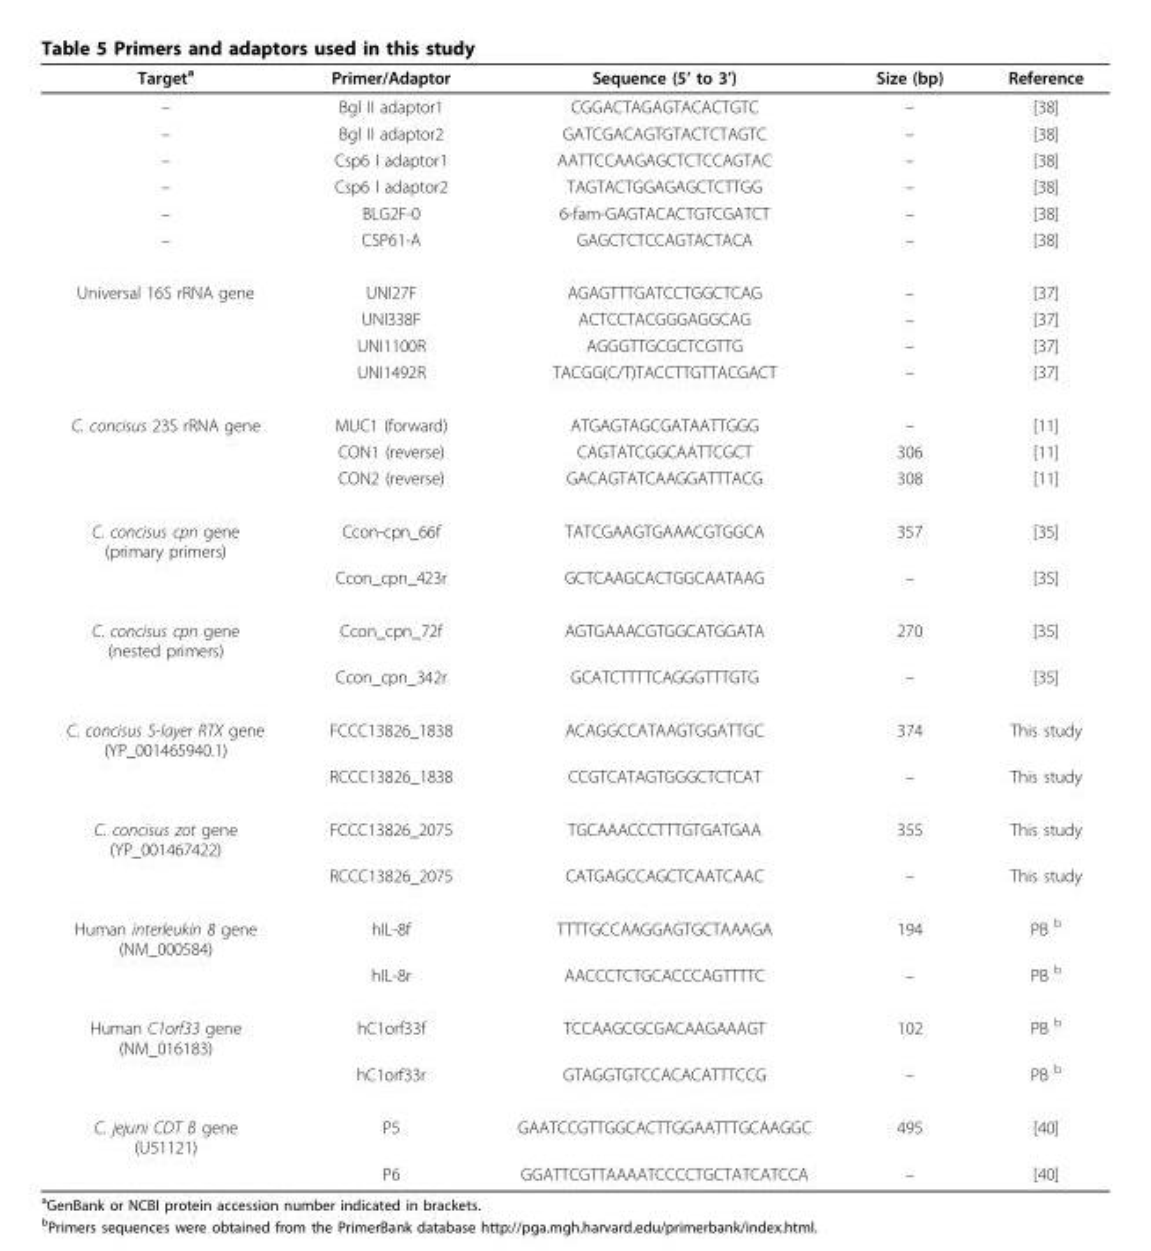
<table><thead><tr><td>Target<sup>a</sup></td><td>Primer/Adaptor</td><td>Sequence (5’ to 3’)</td><td>Size (bp)</td><td>Reference</td></tr></thead><tbody><tr><td>–</td><td>Bgl II adaptor1</td><td>CGGACTAGAGTACACTGTC</td><td>–</td><td>[38]</td></tr><tr><td>–</td><td>Bgl II adaptor2</td><td>GATCGACAGTGTACTCTAGTC</td><td>–</td><td>[38]</td></tr><tr><td>–</td><td>Csp6 I adaptor1</td><td>AATTCCAAGAGCTCTCCAGTAC</td><td>–</td><td>[38]</td></tr><tr><td>–</td><td>Csp6 I adaptor2</td><td>TAGTACTGGAGAGCTCTTGG</td><td>–</td><td>[38]</td></tr><tr><td>–</td><td>BLG2F-0</td><td>6-fam-GAGTACACTGTCGATCT</td><td>–</td><td>[38]</td></tr><tr><td>–</td><td>CSP61-A</td><td>GAGCTCTCCAGTACTACA</td><td>–</td><td>[38]</td></tr><tr><td rowspan="4">Universal 16S rRNA gene</td><td>UNI27F</td><td>AGAGTTTGATCCTGGCTCAG</td><td>–</td><td>[37]</td></tr><tr><td>UNI338F</td><td>ACTCCTACGGGAGGCAG</td><td>–</td><td>[37]</td></tr><tr><td>UNI1100R</td><td>AGGGTTGCGCTCGTTG</td><td>–</td><td>[37]</td></tr><tr><td>UNI1492R</td><td>TACGG(C/T)TACCTTGTTACGACT</td><td>–</td><td>[37]</td></tr><tr><td rowspan="3">C. concisus 23S rRNA gene</td><td>MUC1 (forward)</td><td>ATGAGTAGCGATAATTGGG</td><td>–</td><td>[11]</td></tr><tr><td>CON1 (reverse)</td><td>CAGTATCGGCAATTCGCT</td><td>306</td><td>[11]</td></tr><tr><td>CON2 (reverse)</td><td>GACAGTATCAAGGATTTACG</td><td>308</td><td>[11]</td></tr><tr><td rowspan="2">C. concisus cpn gene (primary primers)</td><td>Ccon-cpn_66f</td><td>TATCGAAGTGAAACGTGGCA</td><td>357</td><td>[35]</td></tr><tr><td>Ccon_cpn_423r</td><td>GCTCAAGCACTGGCAATAAG</td><td>–</td><td>[35]</td></tr><tr><td rowspan="2">C. concisus cpn gene (nested primers)</td><td>Ccon_cpn_72f</td><td>AGTGAAACGTGGCATGGATA</td><td>270</td><td>[35]</td></tr><tr><td>Ccon_cpn_342r</td><td>GCATCTTTTCAGGGTTTGTG</td><td>–</td><td>[35]</td></tr><tr><td rowspan="2">C. concisus S-layer RTX gene (YP_001465940.1)</td><td>FCCC13826_1838</td><td>ACAGGCCATAAGTGGATTGC</td><td>374</td><td>This study</td></tr><tr><td>RCCC13826_1838</td><td>CCGTCATAGTGGGCTCTCAT</td><td>–</td><td>This study</td></tr><tr><td rowspan="2">C. concisus zot gene (YP_001467422)</td><td>FCCC13826_2075</td><td>TGCAAACCCTTTGTGATGAA</td><td>355</td><td>This study</td></tr><tr><td>RCCC13826_2075</td><td>CATGAGCCAGCTCAATCAAC</td><td>–</td><td>This study</td></tr><tr><td rowspan="2">Human interleukin 8 gene (NM_000584)</td><td>hIL-8f</td><td>TTTTGCCAAGGAGTGCTAAAGA</td><td>194</td><td>PB <sup>b</sup></td></tr><tr><td>hIL-8r</td><td>AACCCTCTGCACCCAGTTTTC</td><td>–</td><td>PB <sup>b</sup></td></tr><tr><td rowspan="2">Human C1orf33 gene (NM_016183)</td><td>hC1orf33f</td><td>TCCAAGCGCGACAAGAAAGT</td><td>102</td><td>PB <sup>b</sup></td></tr><tr><td>hC1orf33r</td><td>GTAGGTGTCCACACATTTCCG</td><td>–</td><td>PB <sup>b</sup></td></tr><tr><td rowspan="2">C. jejuni CDT B gene (U51121)</td><td>P5</td><td>GAATCCGTTGGCACTTGGAATTTGCAAGGC</td><td>495</td><td>[40]</td></tr><tr><td>P6</td><td>GGATTCGTTAAAATCCCCTGCTATCATCCA</td><td>–</td><td>[40]</td></tr></tbody></table>